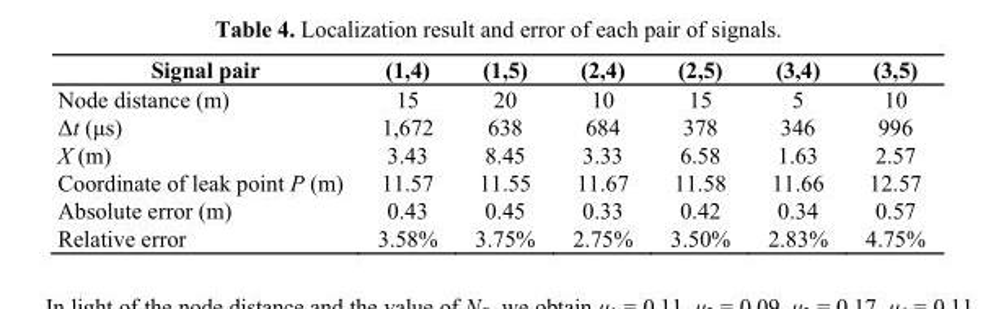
<table><thead><tr><td>Signal pair</td><td>(1,4)</td><td>(1,5)</td><td>(2,4)</td><td>(2,5)</td><td>(3,4)</td><td>(3,5)</td></tr></thead><tbody><tr><td>Node distance (m)</td><td>15</td><td>20</td><td>10</td><td>15</td><td>5</td><td>10</td></tr><tr><td>Δt (μs)</td><td>1,672</td><td>638</td><td>684</td><td>378</td><td>346</td><td>996</td></tr><tr><td>X (m)</td><td>3.43</td><td>8.45</td><td>3.33</td><td>6.58</td><td>1.63</td><td>2.57</td></tr><tr><td>Coordinate of leak point P (m)</td><td>11.57</td><td>11.55</td><td>11.67</td><td>11.58</td><td>11.66</td><td>12.57</td></tr><tr><td>Absolute error (m)</td><td>0.43</td><td>0.45</td><td>0.33</td><td>0.42</td><td>0.34</td><td>0.57</td></tr><tr><td>Relative error</td><td>3.58%</td><td>3.75%</td><td>2.75%</td><td>3.50%</td><td>2.83%</td><td>4.75%</td></tr></tbody></table>